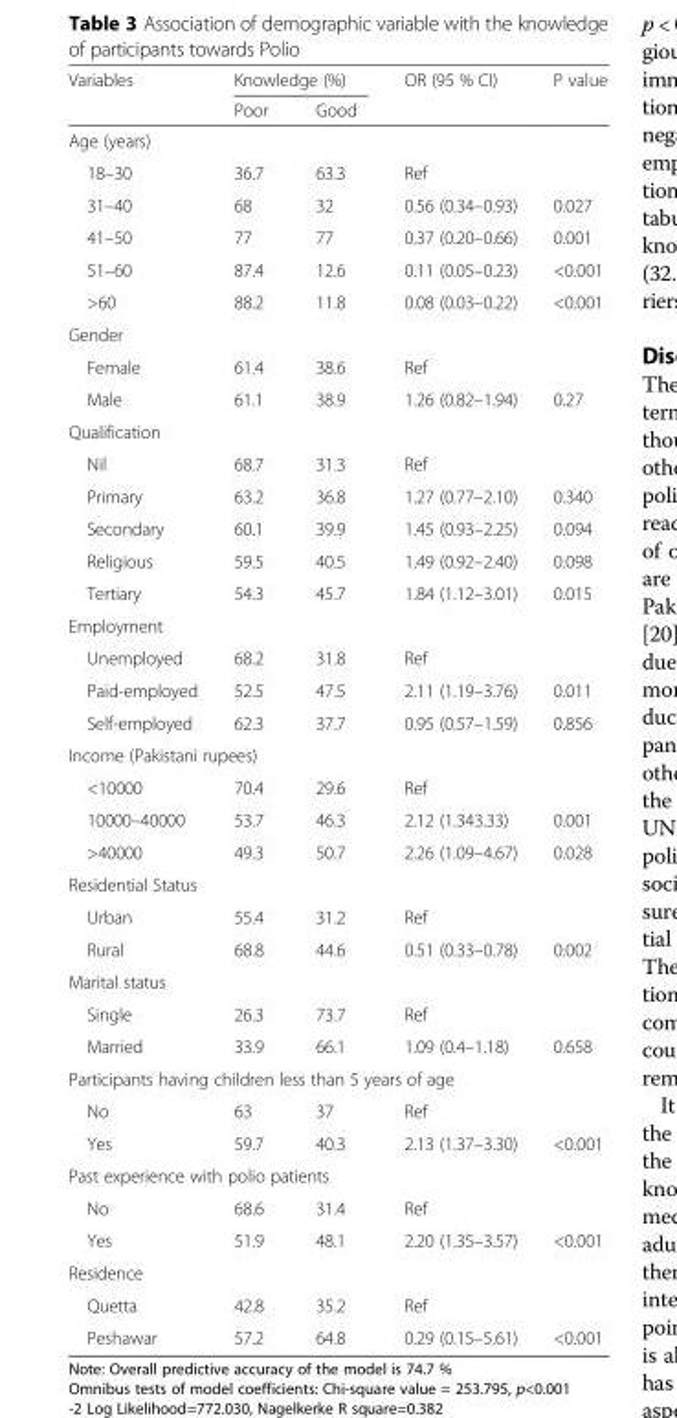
<table><thead><tr><td rowspan="2">Variables</td><td colspan="2">Knowledge (%)</td><td rowspan="2">OR (95 % CI)</td><td rowspan="2">P value</td></tr><tr><td>Poor</td><td>Good</td></tr></thead><tbody><tr><td colspan="5">Age (years)</td></tr><tr><td>18–30</td><td>36.7</td><td>63.3</td><td>Ref</td><td></td></tr><tr><td>31–40</td><td>68</td><td>32</td><td>0.56 (0.34–0.93)</td><td>0.027</td></tr><tr><td>41–50</td><td>77</td><td>77</td><td>0.37 (0.20–0.66)</td><td>0.001</td></tr><tr><td>51–60</td><td>87.4</td><td>12.6</td><td>0.11 (0.05–0.23)</td><td>&lt;0.001</td></tr><tr><td>&gt;60</td><td>88.2</td><td>11.8</td><td>0.08 (0.03–0.22)</td><td>&lt;0.001</td></tr><tr><td colspan="5">Gender</td></tr><tr><td>Female</td><td>61.4</td><td>38.6</td><td>Ref</td><td></td></tr><tr><td>Male</td><td>61.1</td><td>38.9</td><td>1.26 (0.82–1.94)</td><td>0.27</td></tr><tr><td colspan="5">Qualification</td></tr><tr><td>Nil</td><td>68.7</td><td>31.3</td><td>Ref</td><td></td></tr><tr><td>Primary</td><td>63.2</td><td>36.8</td><td>1.27 (0.77–2.10)</td><td>0.340</td></tr><tr><td>Secondary</td><td>60.1</td><td>39.9</td><td>1.45 (0.93–2.25)</td><td>0.094</td></tr><tr><td>Religious</td><td>59.5</td><td>40.5</td><td>1.49 (0.92–2.40)</td><td>0.098</td></tr><tr><td>Tertiary</td><td>54.3</td><td>45.7</td><td>1.84 (1.12–3.01)</td><td>0.015</td></tr><tr><td colspan="5">Employment</td></tr><tr><td>Unemployed</td><td>68.2</td><td>31.8</td><td>Ref</td><td></td></tr><tr><td>Paid-employed</td><td>52.5</td><td>47.5</td><td>2.11 (1.19–3.76)</td><td>0.011</td></tr><tr><td>Self-employed</td><td>62.3</td><td>37.7</td><td>0.95 (0.57–1.59)</td><td>0.856</td></tr><tr><td colspan="5">Income (Pakistani rupees)</td></tr><tr><td>&lt;10000</td><td>70.4</td><td>29.6</td><td>Ref</td><td></td></tr><tr><td>10000–40000</td><td>53.7</td><td>46.3</td><td>2.12 (1.343.33)</td><td>0.001</td></tr><tr><td>&gt;40000</td><td>49.3</td><td>50.7</td><td>2.26 (1.09–4.67)</td><td>0.028</td></tr><tr><td colspan="5">Residential Status</td></tr><tr><td>Urban</td><td>55.4</td><td>31.2</td><td>Ref</td><td></td></tr><tr><td>Rural</td><td>68.8</td><td>44.6</td><td>0.51 (0.33–0.78)</td><td>0.002</td></tr><tr><td colspan="5">Marital status</td></tr><tr><td>Single</td><td>26.3</td><td>73.7</td><td>Ref</td><td></td></tr><tr><td>Married</td><td>33.9</td><td>66.1</td><td>1.09 (0.4–1.18)</td><td>0.658</td></tr><tr><td colspan="5">Participants having children less than 5 years of age</td></tr><tr><td>No</td><td>63</td><td>37</td><td>Ref</td><td></td></tr><tr><td>Yes</td><td>59.7</td><td>40.3</td><td>2.13 (1.37–3.30)</td><td>&lt;0.001</td></tr><tr><td colspan="5">Past experience with polio patients</td></tr><tr><td>No</td><td>68.6</td><td>31.4</td><td>Ref</td><td></td></tr><tr><td>Yes</td><td>51.9</td><td>48.1</td><td>2.20 (1.35–3.57)</td><td>&lt;0.001</td></tr><tr><td colspan="5">Residence</td></tr><tr><td>Quetta</td><td>42.8</td><td>35.2</td><td>Ref</td><td></td></tr><tr><td>Peshawar</td><td>57.2</td><td>64.8</td><td>0.29 (0.15–5.61)</td><td>&lt;0.001</td></tr></tbody></table>